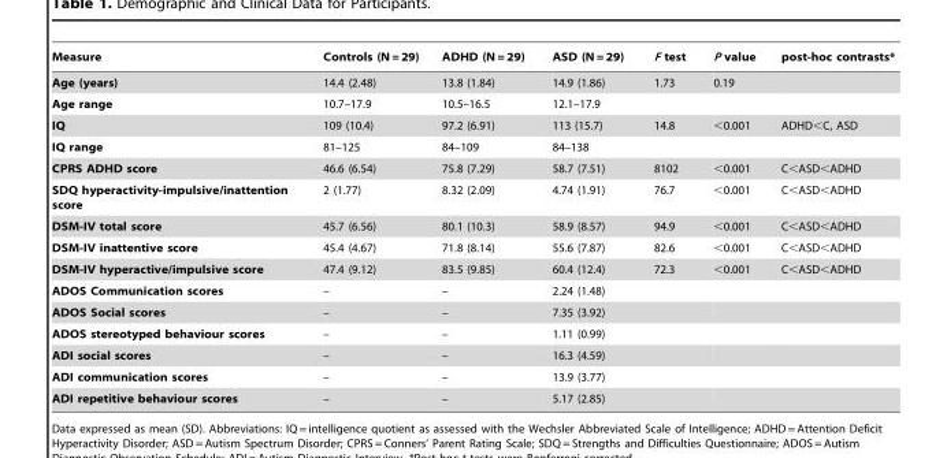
<table><thead><tr><td>Measure</td><td>Controls (N = 29)</td><td>ADHD (N = 29)</td><td>ASD (N = 29)</td><td>F test</td><td>P value</td><td>post-hoc contrasts*</td></tr></thead><tbody><tr><td>Age (years)</td><td>14.4 (2.48)</td><td>13.8 (1.84)</td><td>14.9 (1.86)</td><td>1.73</td><td>0.19</td><td></td></tr><tr><td>Age range</td><td>10.7–17.9</td><td>10.5–16.5</td><td>12.1–17.9</td><td></td><td></td><td></td></tr><tr><td>IQ</td><td>109 (10.4)</td><td>97.2 (6.91)</td><td>113 (15.7)</td><td>14.8</td><td>&lt;0.001</td><td>ADHD&lt;C, ASD</td></tr><tr><td>IQ range</td><td>81–125</td><td>84–109</td><td>84–138</td><td></td><td></td><td></td></tr><tr><td>CPRS ADHD score</td><td>46.6 (6.54)</td><td>75.8 (7.29)</td><td>58.7 (7.51)</td><td>8102</td><td>&lt;0.001</td><td>C&lt;ASD&lt;ADHD</td></tr><tr><td>SDQ hyperactivity-impulsive/inattention score</td><td>2 (1.77)</td><td>8.32 (2.09)</td><td>4.74 (1.91)</td><td>76.7</td><td>&lt;0.001</td><td>C&lt;ASD&lt;ADHD</td></tr><tr><td>DSM-IV total score</td><td>45.7 (6.56)</td><td>80.1 (10.3)</td><td>58.9 (8.57)</td><td>94.9</td><td>&lt;0.001</td><td>C&lt;ASD&lt;ADHD</td></tr><tr><td>DSM-IV inattentive score</td><td>45.4 (4.67)</td><td>71.8 (8.14)</td><td>55.6 (7.87)</td><td>82.6</td><td>&lt;0.001</td><td>C&lt;ASD&lt;ADHD</td></tr><tr><td>DSM-IV hyperactive/impulsive score</td><td>47.4 (9.12)</td><td>83.5 (9.85)</td><td>60.4 (12.4)</td><td>72.3</td><td>&lt;0.001</td><td>C&lt;ASD&lt;ADHD</td></tr><tr><td>ADOS Communication scores</td><td>–</td><td>–</td><td>2.24 (1.48)</td><td></td><td></td><td></td></tr><tr><td>ADOS Social scores</td><td>–</td><td>–</td><td>7.35 (3.92)</td><td></td><td></td><td></td></tr><tr><td>ADOS stereotyped behaviour scores</td><td>–</td><td>–</td><td>1.11 (0.99)</td><td></td><td></td><td></td></tr><tr><td>ADI social scores</td><td>–</td><td>–</td><td>16.3 (4.59)</td><td></td><td></td><td></td></tr><tr><td>ADI communication scores</td><td>–</td><td>–</td><td>13.9 (3.77)</td><td></td><td></td><td></td></tr><tr><td>ADI repetitive behaviour scores</td><td>–</td><td>–</td><td>5.17 (2.85)</td><td></td><td></td><td></td></tr></tbody></table>